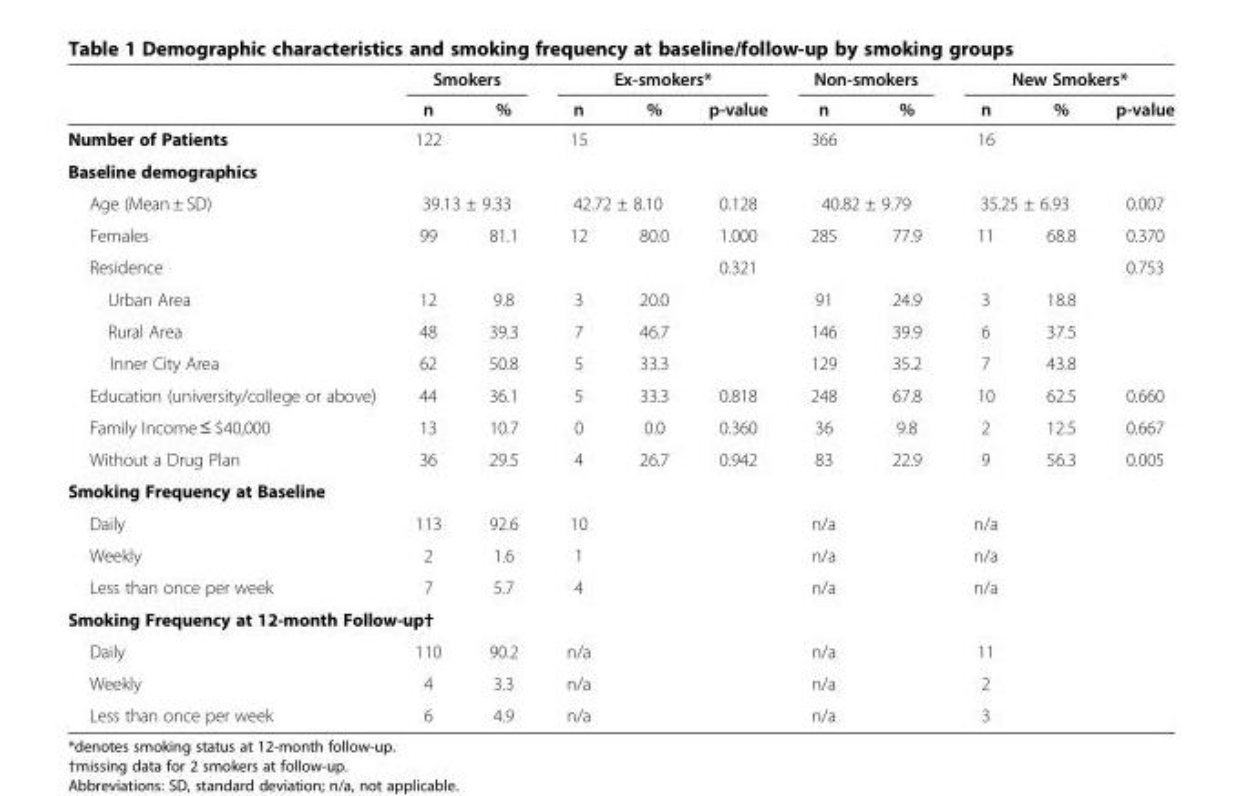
<table><thead><tr><td rowspan="2"></td><td colspan="2">Smokers</td><td colspan="3">Ex-smokers*</td><td colspan="2">Non-smokers</td><td colspan="3">New Smokers*</td></tr><tr><td>n</td><td>%</td><td>n</td><td>%</td><td>p-value</td><td>n</td><td>%</td><td>n</td><td>%</td><td>p-value</td></tr></thead><tbody><tr><td>Number of Patients</td><td>122</td><td></td><td>15</td><td></td><td></td><td>366</td><td></td><td>16</td><td></td><td></td></tr><tr><td colspan="11">Baseline demographics</td></tr><tr><td>Age (Mean ± SD)</td><td colspan="2">39.13 ± 9.33</td><td colspan="2">42.72 ± 8.10</td><td>0.128</td><td colspan="2">40.82 ± 9.79</td><td colspan="2">35.25 ± 6.93</td><td>0.007</td></tr><tr><td>Females</td><td>99</td><td>81.1</td><td>12</td><td>80.0</td><td>1.000</td><td>285</td><td>77.9</td><td>11</td><td>68.8</td><td>0.370</td></tr><tr><td colspan="5">Residence</td><td>0.321</td><td colspan="4"></td><td>0.753</td></tr><tr><td>Urban Area</td><td>12</td><td>9.8</td><td>3</td><td>20.0</td><td></td><td>91</td><td>24.9</td><td>3</td><td>18.8</td><td></td></tr><tr><td>Rural Area</td><td>48</td><td>39.3</td><td>7</td><td>46.7</td><td></td><td>146</td><td>39.9</td><td>6</td><td>37.5</td><td></td></tr><tr><td>Inner City Area</td><td>62</td><td>50.8</td><td>5</td><td>33.3</td><td></td><td>129</td><td>35.2</td><td>7</td><td>43.8</td><td></td></tr><tr><td>Education (university/college or above)</td><td>44</td><td>36.1</td><td>5</td><td>33.3</td><td>0.818</td><td>248</td><td>67.8</td><td>10</td><td>62.5</td><td>0.660</td></tr><tr><td>Family Income ≤ $40,000</td><td>13</td><td>10.7</td><td>0</td><td>0.0</td><td>0.360</td><td>36</td><td>9.8</td><td>2</td><td>12.5</td><td>0.667</td></tr><tr><td>Without a Drug Plan</td><td>36</td><td>29.5</td><td>4</td><td>26.7</td><td>0.942</td><td>83</td><td>22.9</td><td>9</td><td>56.3</td><td>0.005</td></tr><tr><td colspan="11">Smoking Frequency at Baseline</td></tr><tr><td>Daily</td><td>113</td><td>92.6</td><td>10</td><td></td><td></td><td>n/a</td><td></td><td>n/a</td><td></td><td></td></tr><tr><td>Weekly</td><td>2</td><td>1.6</td><td>1</td><td></td><td></td><td>n/a</td><td></td><td>n/a</td><td></td><td></td></tr><tr><td>Less than once per week</td><td>7</td><td>5.7</td><td>4</td><td></td><td></td><td>n/a</td><td></td><td>n/a</td><td></td><td></td></tr><tr><td colspan="11">Smoking Frequency at 12-month Follow-up†</td></tr><tr><td>Daily</td><td>110</td><td>90.2</td><td>n/a</td><td></td><td></td><td>n/a</td><td></td><td>11</td><td></td><td></td></tr><tr><td>Weekly</td><td>4</td><td>3.3</td><td>n/a</td><td></td><td></td><td>n/a</td><td></td><td>2</td><td></td><td></td></tr><tr><td>Less than once per week</td><td>6</td><td>4.9</td><td>n/a</td><td></td><td></td><td>n/a</td><td></td><td>3</td><td></td><td></td></tr></tbody></table>